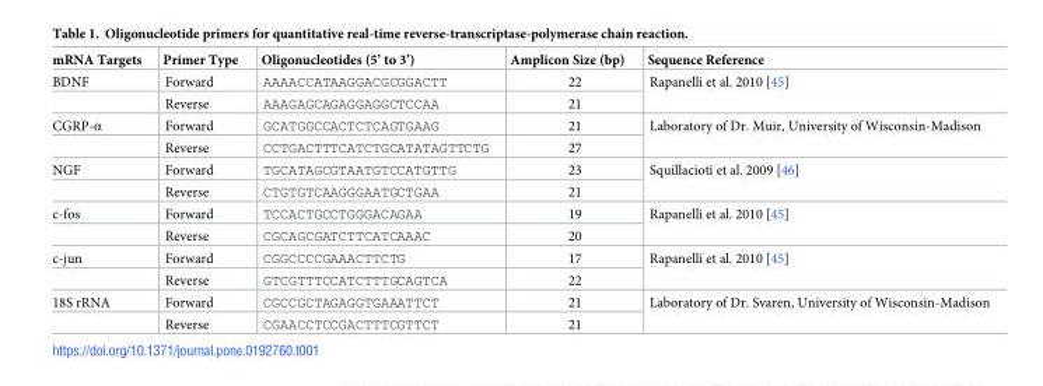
<table><thead><tr><td>mRNA Targets</td><td>Primer Type</td><td>Oligonucleotides (5’ to 3’)</td><td>Amplicon Size (bp)</td><td>Sequence Reference</td></tr></thead><tbody><tr><td rowspan="2">BDNF</td><td>Forward</td><td>AAAACCATAAGGACGCGGACTT</td><td>22</td><td rowspan="2">Rapanelli et al. 2010 [45]</td></tr><tr><td>Reverse</td><td>AAAGAGCAGAGGAGGCTCCAA</td><td>21</td></tr><tr><td rowspan="2">CGRP-α</td><td>Forward</td><td>GCATGGCCACTCTCAGTGAAG</td><td>21</td><td rowspan="2">Laboratory of Dr. Muir, University of Wisconsin-Madison</td></tr><tr><td>Reverse</td><td>CCTGACTTTCATCTGCATATAGTTCTG</td><td>27</td></tr><tr><td rowspan="2">NGF</td><td>Forward</td><td>TGCATAGCGTAATGTCCATGTTG</td><td>23</td><td rowspan="2">Squillacioti et al. 2009 [46]</td></tr><tr><td>Reverse</td><td>CTGTGTCAAGGGAATGCTGAA</td><td>21</td></tr><tr><td rowspan="2">c-fos</td><td>Forward</td><td>TCCACTGCCTGGGACAGAA</td><td>19</td><td rowspan="2">Rapanelli et al. 2010 [45]</td></tr><tr><td>Reverse</td><td>CGCAGCGATCTTCATCAAAC</td><td>20</td></tr><tr><td rowspan="2">c-jun</td><td>Forward</td><td>CGGCCCCGAAACTTCTG</td><td>17</td><td rowspan="2">Rapanelli et al. 2010 [45]</td></tr><tr><td>Reverse</td><td>GTCGTTTCCATCTTTGCAGTCA</td><td>22</td></tr><tr><td rowspan="2">18S rRNA</td><td>Forward</td><td>CGCCGCTAGAGGTGAAATTCT</td><td>21</td><td rowspan="2">Laboratory of Dr. Svaren, University of Wisconsin-Madison</td></tr><tr><td>Reverse</td><td>CGAACCTCCGACTTTCGTTCT</td><td>21</td></tr></tbody></table>